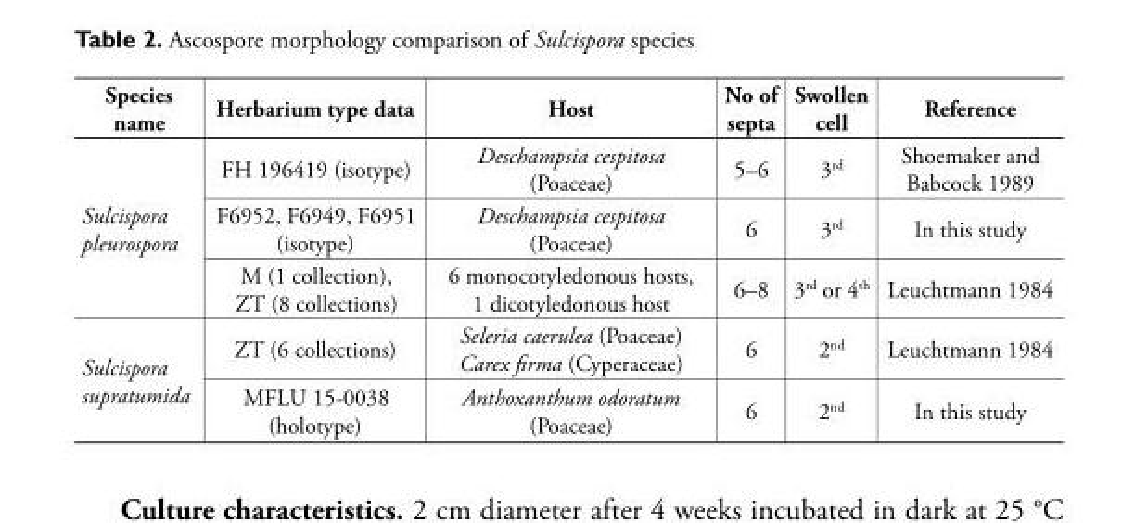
<table><thead><tr><td>Species name</td><td>Herbarium type data</td><td>Host</td><td>No of septa</td><td>Swollen cell</td><td>Reference</td></tr></thead><tbody><tr><td rowspan="3">Sulcispora pleurospora</td><td>FH 196419 (isotype)</td><td>Deschampsia cespitosa (Poaceae)</td><td>5–6</td><td>3<sup>rd</sup></td><td>Shoemaker and Babcock 1989</td></tr><tr><td>F6952, F6949, F6951 (isotype)</td><td>Deschampsia cespitosa (Poaceae)</td><td>6</td><td>3<sup>rd</sup></td><td>In this study</td></tr><tr><td>M (1 collection), ZT (8 collections)</td><td>6 monocotyledonous hosts, 1 dicotyledonous host</td><td>6–8</td><td>3<sup>rd</sup> or 4<sup>th</sup></td><td>Leuchtmann 1984</td></tr><tr><td rowspan="2">Sulcispora supratumida</td><td>ZT (6 collections)</td><td>Seleria caerulea (Poaceae) Carex firma (Cyperaceae)</td><td>6</td><td>2<sup>nd</sup></td><td>Leuchtmann 1984</td></tr><tr><td>MFLU 15-0038 (holotype)</td><td>Anthoxanthum odoratum (Poaceae)</td><td>6</td><td>2<sup>nd</sup></td><td>In this study</td></tr></tbody></table>